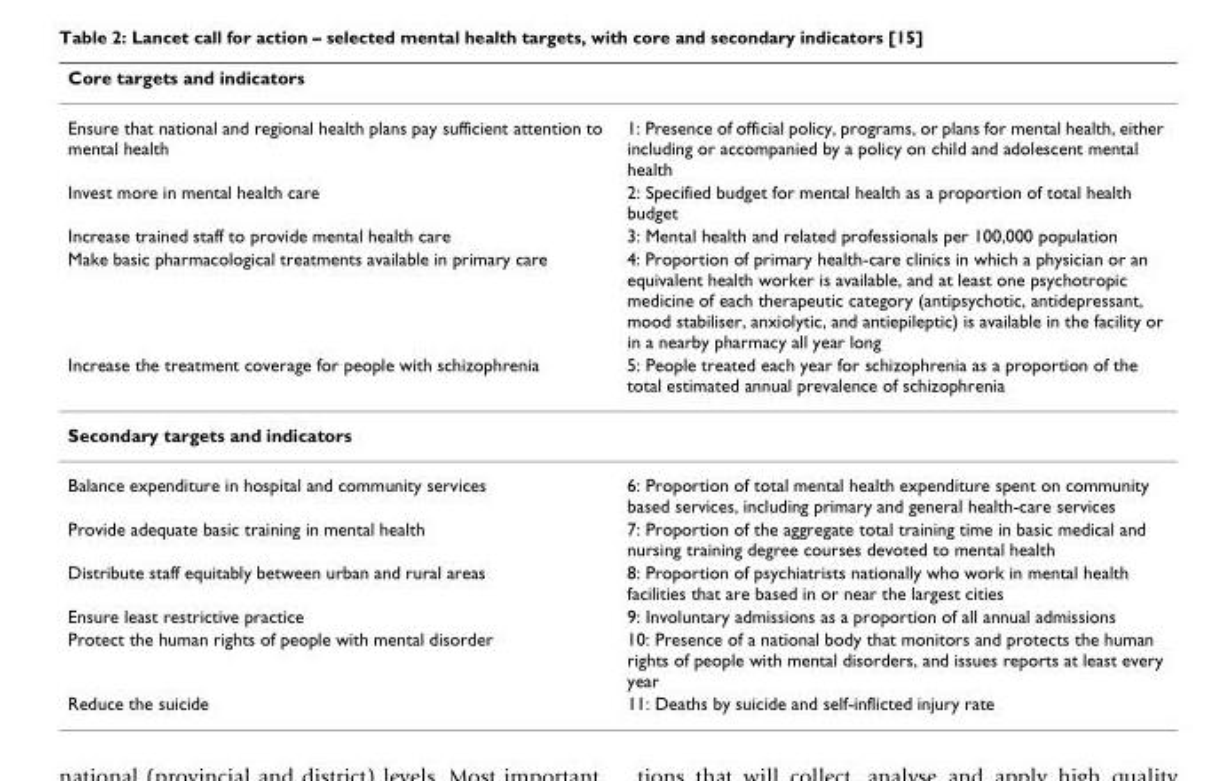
<table><thead><tr><td colspan="2">Core targets and indicators</td></tr><tr><td>Ensure that national and regional health plans pay sufficient attention to mental health</td><td>1: Presence of official policy, programs, or plans for mental health, either including or accompanied by a policy on child and adolescent mental health</td></tr></thead><tbody><tr><td>Invest more in mental health care</td><td>2: Specified budget for mental health as a proportion of total health budget</td></tr><tr><td>Increase trained staff to provide mental health care</td><td>3: Mental health and related professionals per 100,000 population</td></tr><tr><td>Make basic pharmacological treatments available in primary care</td><td>4: Proportion of primary health-care clinics in which a physician or an equivalent health worker is available, and at least one psychotropic medicine of each therapeutic category (antipsychotic, antidepressant, mood stabiliser, anxiolytic, and antiepileptic) is available in the facility or in a nearby pharmacy all year long</td></tr><tr><td>Increase the treatment coverage for people with schizophrenia</td><td>5: People treated each year for schizophrenia as a proportion of the total estimated annual prevalence of schizophrenia</td></tr><tr><td colspan="2">Secondary targets and indicators</td></tr><tr><td>Balance expenditure in hospital and community services</td><td>6: Proportion of total mental health expenditure spent on community based services, including primary and general health-care services</td></tr><tr><td>Provide adequate basic training in mental health</td><td>7: Proportion of the aggregate total training time in basic medical and nursing training degree courses devoted to mental health</td></tr><tr><td>Distribute staff equitably between urban and rural areas</td><td>8: Proportion of psychiatrists nationally who work in mental health facilities that are based in or near the largest cities</td></tr><tr><td>Ensure least restrictive practice</td><td>9: Involuntary admissions as a proportion of all annual admissions</td></tr><tr><td>Protect the human rights of people with mental disorder</td><td>10: Presence of a national body that monitors and protects the human rights of people with mental disorders, and issues reports at least every year</td></tr><tr><td>Reduce the suicide</td><td>11: Deaths by suicide and self-inflicted injury rate</td></tr></tbody></table>